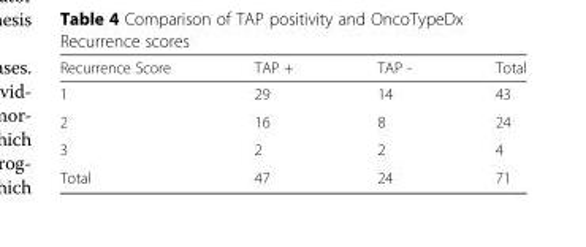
<table><thead><tr><td>Recurrence Score</td><td>TAP +</td><td>TAP -</td><td>Total</td></tr></thead><tbody><tr><td>1</td><td>29</td><td>14</td><td>43</td></tr><tr><td>2</td><td>16</td><td>8</td><td>24</td></tr><tr><td>3</td><td>2</td><td>2</td><td>4</td></tr><tr><td>Total</td><td>47</td><td>24</td><td>71</td></tr></tbody></table>